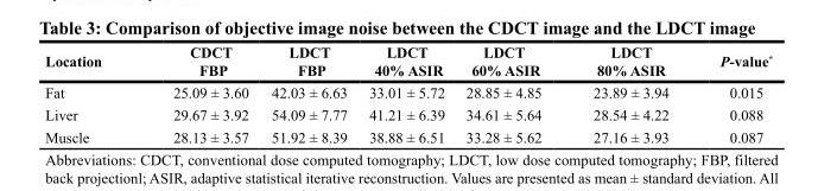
<table><thead><tr><td>Location</td><td>CDCT FBP</td><td>LDCT FBP</td><td>LDCT 40% ASIR</td><td>LDCT 60% ASIR</td><td>LDCT 80% ASIR</td><td>P-value*</td></tr></thead><tbody><tr><td>Fat</td><td>25.09 ± 3.60</td><td>42.03 ± 6.63</td><td>33.01 ± 5.72</td><td>28.85 ± 4.85</td><td>23.89 ± 3.94</td><td>0.015</td></tr><tr><td>Liver</td><td>29.67 ± 3.92</td><td>54.09 ± 7.77</td><td>41.21 ± 6.39</td><td>34.61 ± 5.64</td><td>28.54 ± 4.22</td><td>0.088</td></tr><tr><td>Muscle</td><td>28.13 ± 3.57</td><td>51.92 ± 8.39</td><td>38.88 ± 6.51</td><td>33.28 ± 5.62</td><td>27.16 ± 3.93</td><td>0.087</td></tr></tbody></table>